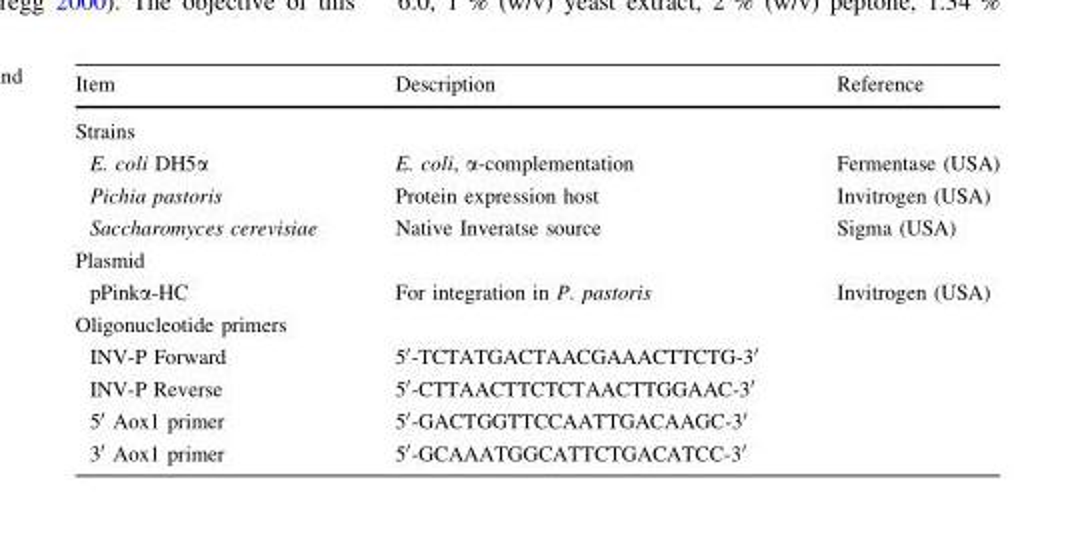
<table><thead><tr><td>Item</td><td>Description</td><td>Reference</td></tr></thead><tbody><tr><td colspan="3">Strains</td></tr><tr><td>E. coli DH5α</td><td>E. coli, α-complementation</td><td>Fermentase (USA)</td></tr><tr><td>Pichia pastoris</td><td>Protein expression host</td><td>Invitrogen (USA)</td></tr><tr><td>Saccharomyces cerevisiae</td><td>Native Inveratse source</td><td>Sigma (USA)</td></tr><tr><td colspan="3">Plasmid</td></tr><tr><td>pPinkα-HC</td><td>For integration in P. pastoris</td><td>Invitrogen (USA)</td></tr><tr><td colspan="3">Oligonucleotide primers</td></tr><tr><td>INV-P Forward</td><td>5′-TCTATGACTAACGAAACTTCTG-3′</td><td></td></tr><tr><td>INV-P Reverse</td><td>5′-CTTAACTTCTCTAACTTGGAAC-3′</td><td></td></tr><tr><td>5′ Aox1 primer</td><td>5′-GACTGGTTCCAATTGACAAGC-3′</td><td></td></tr><tr><td>3′ Aox1 primer</td><td>5′-GCAAATGGCATTCTGACATCC-3′</td><td></td></tr></tbody></table>